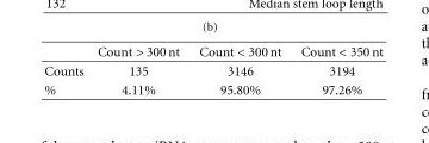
<table><thead><tr><td></td><td>Count &gt; 300 nt</td><td>Count &lt; 300 nt</td><td>Count &lt; 350 nt</td></tr></thead><tbody><tr><td>Counts</td><td>135</td><td>3146</td><td>3194</td></tr><tr><td>%</td><td>4.11%</td><td>95.80%</td><td>97.26%</td></tr></tbody></table>